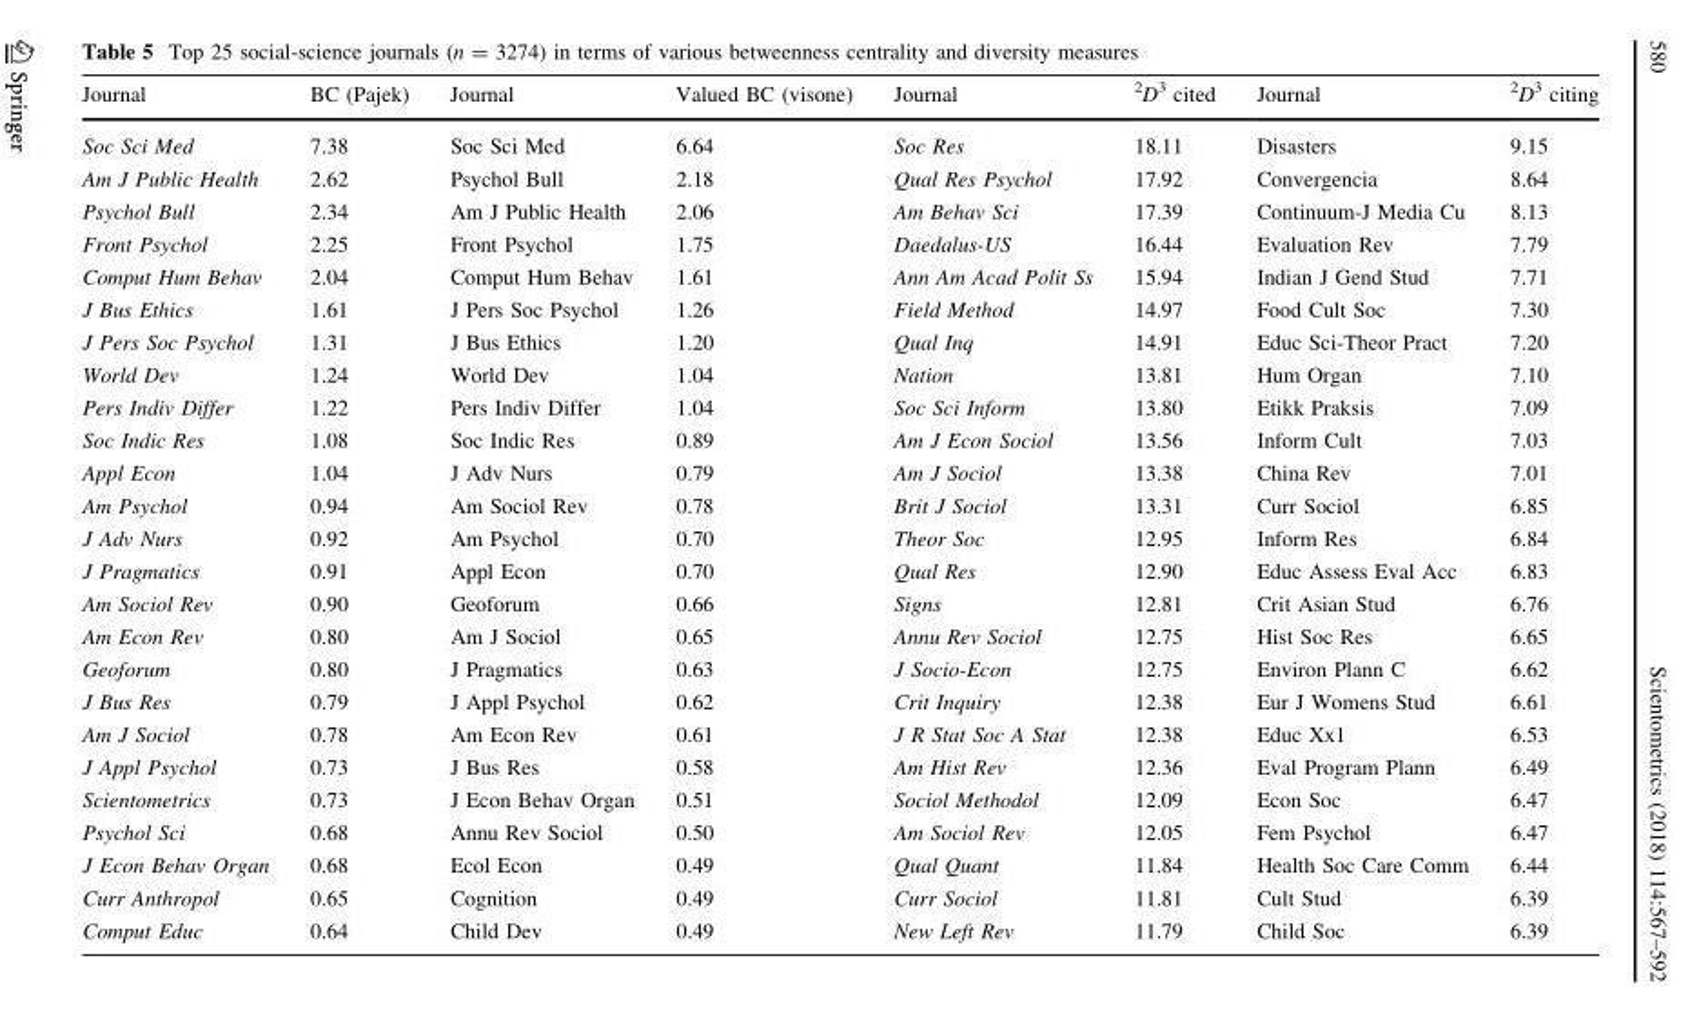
<table><thead><tr><td>Journal</td><td>BC (Pajek)</td><td>Journal</td><td>Valued BC (visone)</td><td>Journal</td><td><sup>2</sup>D<sup>3</sup> cited</td><td>Journal</td><td><sup>2</sup>D<sup>3</sup> citing</td></tr></thead><tbody><tr><td>Soc Sci Med</td><td>7.38</td><td>Soc Sci Med</td><td>6.64</td><td>Soc Res</td><td>18.11</td><td>Disasters</td><td>9.15</td></tr><tr><td>Am J Public Health</td><td>2.62</td><td>Psychol Bull</td><td>2.18</td><td>Qual Res Psychol</td><td>17.92</td><td>Convergencia</td><td>8.64</td></tr><tr><td>Psychol Bull</td><td>2.34</td><td>Am J Public Health</td><td>2.06</td><td>Am Behav Sci</td><td>17.39</td><td>Continuum-J Media Cu</td><td>8.13</td></tr><tr><td>Front Psychol</td><td>2.25</td><td>Front Psychol</td><td>1.75</td><td>Daedalus-US</td><td>16.44</td><td>Evaluation Rev</td><td>7.79</td></tr><tr><td>Comput Hum Behav</td><td>2.04</td><td>Comput Hum Behav</td><td>1.61</td><td>Ann Am Acad Polit Ss</td><td>15.94</td><td>Indian J Gend Stud</td><td>7.71</td></tr><tr><td>J Bus Ethics</td><td>1.61</td><td>J Pers Soc Psychol</td><td>1.26</td><td>Field Method</td><td>14.97</td><td>Food Cult Soc</td><td>7.30</td></tr><tr><td>J Pers Soc Psychol</td><td>1.31</td><td>J Bus Ethics</td><td>1.20</td><td>Qual Inq</td><td>14.91</td><td>Educ Sci-Theor Pract</td><td>7.20</td></tr><tr><td>World Dev</td><td>1.24</td><td>World Dev</td><td>1.04</td><td>Nation</td><td>13.81</td><td>Hum Organ</td><td>7.10</td></tr><tr><td>Pers Indiv Differ</td><td>1.22</td><td>Pers Indiv Differ</td><td>1.04</td><td>Soc Sci Inform</td><td>13.80</td><td>Etikk Praksis</td><td>7.09</td></tr><tr><td>Soc Indic Res</td><td>1.08</td><td>Soc Indic Res</td><td>0.89</td><td>Am J Econ Sociol</td><td>13.56</td><td>Inform Cult</td><td>7.03</td></tr><tr><td>Appl Econ</td><td>1.04</td><td>J Adv Nurs</td><td>0.79</td><td>Am J Sociol</td><td>13.38</td><td>China Rev</td><td>7.01</td></tr><tr><td>Am Psychol</td><td>0.94</td><td>Am Sociol Rev</td><td>0.78</td><td>Brit J Sociol</td><td>13.31</td><td>Curr Sociol</td><td>6.85</td></tr><tr><td>J Adv Nurs</td><td>0.92</td><td>Am Psychol</td><td>0.70</td><td>Theor Soc</td><td>12.95</td><td>Inform Res</td><td>6.84</td></tr><tr><td>J Pragmatics</td><td>0.91</td><td>Appl Econ</td><td>0.70</td><td>Qual Res</td><td>12.90</td><td>Educ Assess Eval Acc</td><td>6.83</td></tr><tr><td>Am Sociol Rev</td><td>0.90</td><td>Geoforum</td><td>0.66</td><td>Signs</td><td>12.81</td><td>Crit Asian Stud</td><td>6.76</td></tr><tr><td>Am Econ Rev</td><td>0.80</td><td>Am J Sociol</td><td>0.65</td><td>Annu Rev Sociol</td><td>12.75</td><td>Hist Soc Res</td><td>6.65</td></tr><tr><td>Geoforum</td><td>0.80</td><td>J Pragmatics</td><td>0.63</td><td>J Socio-Econ</td><td>12.75</td><td>Environ Plann C</td><td>6.62</td></tr><tr><td>J Bus Res</td><td>0.79</td><td>J Appl Psychol</td><td>0.62</td><td>Crit Inquiry</td><td>12.38</td><td>Eur J Womens Stud</td><td>6.61</td></tr><tr><td>Am J Sociol</td><td>0.78</td><td>Am Econ Rev</td><td>0.61</td><td>J R Stat Soc A Stat</td><td>12.38</td><td>Educ Xx1</td><td>6.53</td></tr><tr><td>J Appl Psychol</td><td>0.73</td><td>J Bus Res</td><td>0.58</td><td>Am Hist Rev</td><td>12.36</td><td>Eval Program Plann</td><td>6.49</td></tr><tr><td>Scientometrics</td><td>0.73</td><td>J Econ Behav Organ</td><td>0.51</td><td>Sociol Methodol</td><td>12.09</td><td>Econ Soc</td><td>6.47</td></tr><tr><td>Psychol Sci</td><td>0.68</td><td>Annu Rev Sociol</td><td>0.50</td><td>Am Sociol Rev</td><td>12.05</td><td>Fem Psychol</td><td>6.47</td></tr><tr><td>J Econ Behav Organ</td><td>0.68</td><td>Ecol Econ</td><td>0.49</td><td>Qual Quant</td><td>11.84</td><td>Health Soc Care Comm</td><td>6.44</td></tr><tr><td>Curr Anthropol</td><td>0.65</td><td>Cognition</td><td>0.49</td><td>Curr Sociol</td><td>11.81</td><td>Cult Stud</td><td>6.39</td></tr><tr><td>Comput Educ</td><td>0.64</td><td>Child Dev</td><td>0.49</td><td>New Left Rev</td><td>11.79</td><td>Child Soc</td><td>6.39</td></tr></tbody></table>